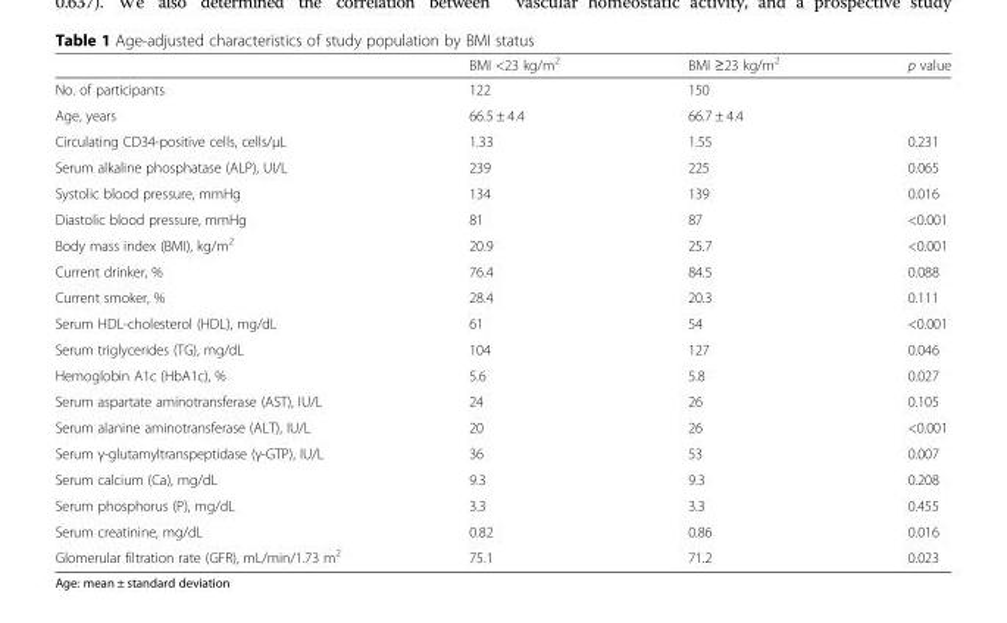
<table><thead><tr><td></td><td>BMI &lt;23 kg/m<sup>2</sup></td><td>BMI ≥23 kg/m<sup>2</sup></td><td>p value</td></tr></thead><tbody><tr><td>No. of participants</td><td>122</td><td>150</td><td></td></tr><tr><td>Age, years</td><td>66.5 ± 4.4</td><td>66.7 ± 4.4</td><td></td></tr><tr><td>Circulating CD34-positive cells, cells/μL</td><td>1.33</td><td>1.55</td><td>0.231</td></tr><tr><td>Serum alkaline phosphatase (ALP), UI/L</td><td>239</td><td>225</td><td>0.065</td></tr><tr><td>Systolic blood pressure, mmHg</td><td>134</td><td>139</td><td>0.016</td></tr><tr><td>Diastolic blood pressure, mmHg</td><td>81</td><td>87</td><td>&lt;0.001</td></tr><tr><td>Body mass index (BMI), kg/m<sup>2</sup></td><td>20.9</td><td>25.7</td><td>&lt;0.001</td></tr><tr><td>Current drinker, %</td><td>76.4</td><td>84.5</td><td>0.088</td></tr><tr><td>Current smoker, %</td><td>28.4</td><td>20.3</td><td>0.111</td></tr><tr><td>Serum HDL-cholesterol (HDL), mg/dL</td><td>61</td><td>54</td><td>&lt;0.001</td></tr><tr><td>Serum triglycerides (TG), mg/dL</td><td>104</td><td>127</td><td>0.046</td></tr><tr><td>Hemoglobin A1c (HbA1c), %</td><td>5.6</td><td>5.8</td><td>0.027</td></tr><tr><td>Serum aspartate aminotransferase (AST), IU/L</td><td>24</td><td>26</td><td>0.105</td></tr><tr><td>Serum alanine aminotransferase (ALT), IU/L</td><td>20</td><td>26</td><td>&lt;0.001</td></tr><tr><td>Serum γ-glutamyltranspeptidase (γ-GTP), IU/L</td><td>36</td><td>53</td><td>0.007</td></tr><tr><td>Serum calcium (Ca), mg/dL</td><td>9.3</td><td>9.3</td><td>0.208</td></tr><tr><td>Serum phosphorus (P), mg/dL</td><td>3.3</td><td>3.3</td><td>0.455</td></tr><tr><td>Serum creatinine, mg/dL</td><td>0.82</td><td>0.86</td><td>0.016</td></tr><tr><td>Glomerular filtration rate (GFR), mL/min/1.73 m<sup>2</sup></td><td>75.1</td><td>71.2</td><td>0.023</td></tr></tbody></table>